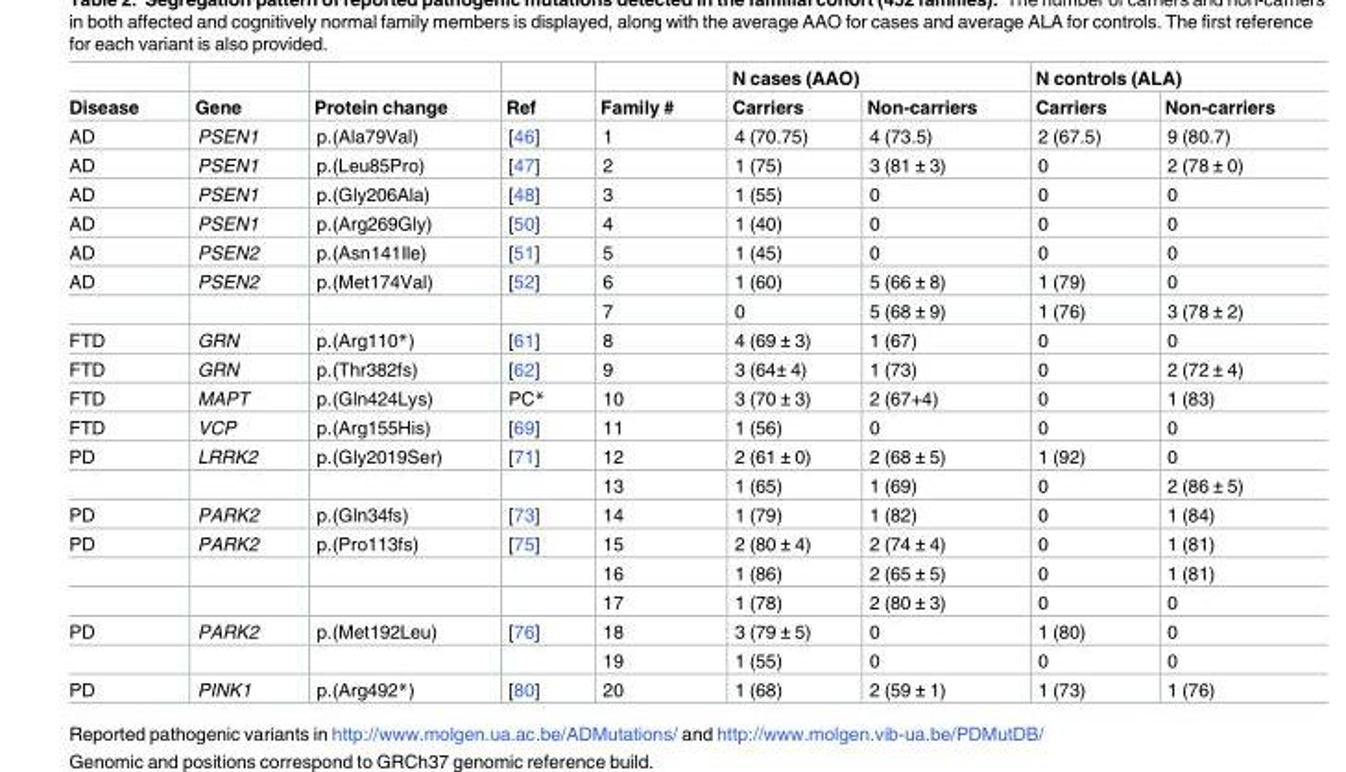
<table><thead><tr><td rowspan="2">Disease</td><td rowspan="2">Gene</td><td rowspan="2">Protein change</td><td rowspan="2">Ref</td><td rowspan="2">Family #</td><td colspan="2">N cases (AAO)</td><td colspan="2">N controls (ALA)</td></tr><tr><td>Carriers</td><td>Non-carriers</td><td>Carriers</td><td>Non-carriers</td></tr></thead><tbody><tr><td>AD</td><td>PSEN1</td><td>p.(Ala79Val)</td><td>[46]</td><td>1</td><td>4 (70.75)</td><td>4 (73.5)</td><td>2 (67.5)</td><td>9 (80.7)</td></tr><tr><td>AD</td><td>PSEN1</td><td>p.(Leu85Pro)</td><td>[47]</td><td>2</td><td>1 (75)</td><td>3 (81 ± 3)</td><td>0</td><td>2 (78 ± 0)</td></tr><tr><td>AD</td><td>PSEN1</td><td>p.(Gly206Ala)</td><td>[48]</td><td>3</td><td>1 (55)</td><td>0</td><td>0</td><td>0</td></tr><tr><td>AD</td><td>PSEN1</td><td>p.(Arg269Gly)</td><td>[50]</td><td>4</td><td>1 (40)</td><td>0</td><td>0</td><td>0</td></tr><tr><td>AD</td><td>PSEN2</td><td>p.(Asn141Ile)</td><td>[51]</td><td>5</td><td>1 (45)</td><td>0</td><td>0</td><td>0</td></tr><tr><td rowspan="2">AD</td><td>PSEN2</td><td>p.(Met174Val)</td><td>[52]</td><td>6</td><td>1 (60)</td><td>5 (66 ± 8)</td><td>1 (79)</td><td>0</td></tr><tr><td></td><td></td><td></td><td>7</td><td>0</td><td>5 (68 ± 9)</td><td>1 (76)</td><td>3 (78 ± 2)</td></tr><tr><td>FTD</td><td>GRN</td><td>p.(Arg110*)</td><td>[61]</td><td>8</td><td>4 (69 ± 3)</td><td>1 (67)</td><td>0</td><td>0</td></tr><tr><td>FTD</td><td>GRN</td><td>p.(Thr382fs)</td><td>[62]</td><td>9</td><td>3 (64± 4)</td><td>1 (73)</td><td>0</td><td>2 (72 ± 4)</td></tr><tr><td>FTD</td><td>MAPT</td><td>p.(Gln424Lys)</td><td>PC*</td><td>10</td><td>3 (70 ± 3)</td><td>2 (67+4)</td><td>0</td><td>1 (83)</td></tr><tr><td>FTD</td><td>VCP</td><td>p.(Arg155His)</td><td>[69]</td><td>11</td><td>1 (56)</td><td>0</td><td>0</td><td>0</td></tr><tr><td rowspan="2">PD</td><td>LRRK2</td><td>p.(Gly2019Ser)</td><td>[71]</td><td>12</td><td>2 (61 ± 0)</td><td>2 (68 ± 5)</td><td>1 (92)</td><td>0</td></tr><tr><td></td><td></td><td></td><td>13</td><td>1 (65)</td><td>1 (69)</td><td>0</td><td>2 (86 ± 5)</td></tr><tr><td>PD</td><td>PARK2</td><td>p.(Gln34fs)</td><td>[73]</td><td>14</td><td>1 (79)</td><td>1 (82)</td><td>0</td><td>1 (84)</td></tr><tr><td rowspan="3">PD</td><td>PARK2</td><td>p.(Pro113fs)</td><td>[75]</td><td>15</td><td>2 (80 ± 4)</td><td>2 (74 ± 4)</td><td>0</td><td>1 (81)</td></tr><tr><td></td><td></td><td></td><td>16</td><td>1 (86)</td><td>2 (65 ± 5)</td><td>0</td><td>1 (81)</td></tr><tr><td></td><td></td><td></td><td>17</td><td>1 (78)</td><td>2 (80 ± 3)</td><td>0</td><td>0</td></tr><tr><td rowspan="2">PD</td><td>PARK2</td><td>p.(Met192Leu)</td><td>[76]</td><td>18</td><td>3 (79 ± 5)</td><td>0</td><td>1 (80)</td><td>0</td></tr><tr><td></td><td></td><td></td><td>19</td><td>1 (55)</td><td>0</td><td>0</td><td>0</td></tr><tr><td>PD</td><td>PINK1</td><td>p.(Arg492*)</td><td>[80]</td><td>20</td><td>1 (68)</td><td>2 (59 ± 1)</td><td>1 (73)</td><td>1 (76)</td></tr></tbody></table>